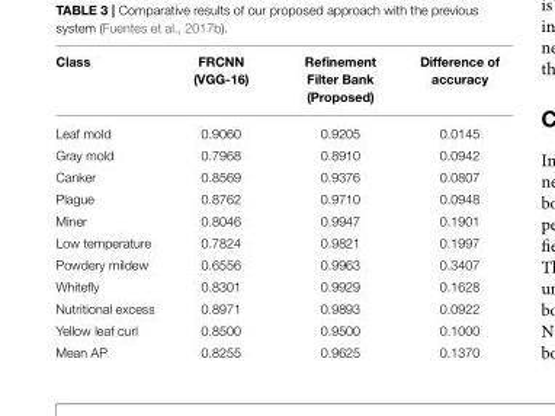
<table><thead><tr><td>Class</td><td>FRCNN (VGG-16)</td><td>Refinement Filter Bank (Proposed)</td><td>Difference of accuracy</td></tr></thead><tbody><tr><td>Leaf mold</td><td>0.9060</td><td>0.9205</td><td>0.0145</td></tr><tr><td>Gray mold</td><td>0.7968</td><td>0.8910</td><td>0.0942</td></tr><tr><td>Canker</td><td>0.8569</td><td>0.9376</td><td>0.0807</td></tr><tr><td>Plague</td><td>0.8762</td><td>0.9710</td><td>0.0948</td></tr><tr><td>Miner</td><td>0.8046</td><td>0.9947</td><td>0.1901</td></tr><tr><td>Low temperature</td><td>0.7824</td><td>0.9821</td><td>0.1997</td></tr><tr><td>Powdery mildew</td><td>0.6556</td><td>0.9963</td><td>0.3407</td></tr><tr><td>Whitefly</td><td>0.8301</td><td>0.9929</td><td>0.1628</td></tr><tr><td>Nutritional excess</td><td>0.8971</td><td>0.9893</td><td>0.0922</td></tr><tr><td>Yellow leaf curl</td><td>0.8500</td><td>0.9500</td><td>0.1000</td></tr><tr><td>Mean AP</td><td>0.8255</td><td>0.9625</td><td>0.1370</td></tr></tbody></table>